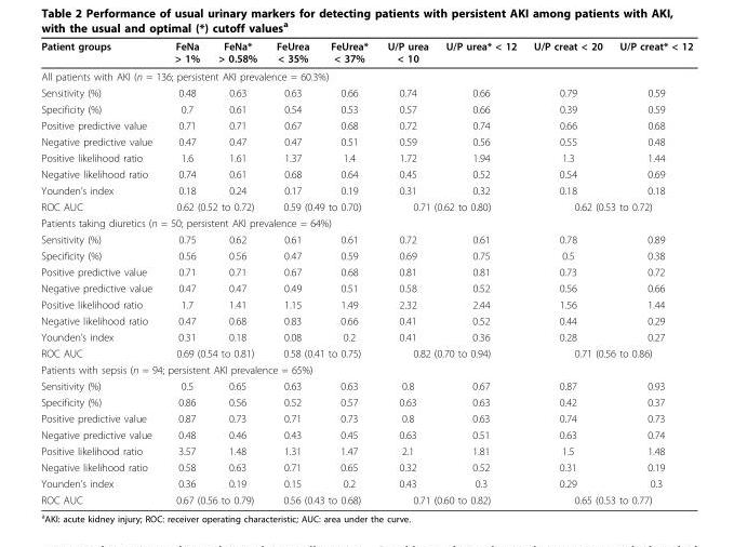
<table><thead><tr><td>Patient groups</td><td>FeNa &gt; 1%</td><td>FeNa* &gt; 0.58%</td><td>FeUrea &lt; 35%</td><td>FeUrea* &lt; 37%</td><td>U/P urea &lt; 10</td><td>U/P urea* &lt; 12</td><td>U/P creat &lt; 20</td><td>U/P creat* &lt; 12</td></tr></thead><tbody><tr><td colspan="9">All patients with AKI (n = 136; persistent AKI prevalence = 60.3%)</td></tr><tr><td>Sensitivity (%)</td><td>0.48</td><td>0.63</td><td>0.63</td><td>0.66</td><td>0.74</td><td>0.66</td><td>0.79</td><td>0.59</td></tr><tr><td>Specificity (%)</td><td>0.7</td><td>0.61</td><td>0.54</td><td>0.53</td><td>0.57</td><td>0.66</td><td>0.39</td><td>0.59</td></tr><tr><td>Positive predictive value</td><td>0.71</td><td>0.71</td><td>0.67</td><td>0.68</td><td>0.72</td><td>0.74</td><td>0.66</td><td>0.68</td></tr><tr><td>Negative predictive value</td><td>0.47</td><td>0.47</td><td>0.47</td><td>0.51</td><td>0.59</td><td>0.56</td><td>0.55</td><td>0.48</td></tr><tr><td>Positive likelihood ratio</td><td>1.6</td><td>1.61</td><td>1.37</td><td>1.4</td><td>1.72</td><td>1.94</td><td>1.3</td><td>1.44</td></tr><tr><td>Negative likelihood ratio</td><td>0.74</td><td>0.61</td><td>0.68</td><td>0.64</td><td>0.45</td><td>0.52</td><td>0.54</td><td>0.69</td></tr><tr><td>Younden’s index</td><td>0.18</td><td>0.24</td><td>0.17</td><td>0.19</td><td>0.31</td><td>0.32</td><td>0.18</td><td>0.18</td></tr><tr><td>ROC AUC</td><td colspan="2">0.62 (0.52 to 0.72)</td><td colspan="2">0.59 (0.49 to 0.70)</td><td colspan="2">0.71 (0.62 to 0.80)</td><td colspan="2">0.62 (0.53 to 0.72)</td></tr><tr><td colspan="9">Patients taking diuretics (n = 50; persistent AKI prevalence = 64%)</td></tr><tr><td>Sensitivity (%)</td><td>0.75</td><td>0.62</td><td>0.61</td><td>0.61</td><td>0.72</td><td>0.61</td><td>0.78</td><td>0.89</td></tr><tr><td>Specificity (%)</td><td>0.56</td><td>0.56</td><td>0.47</td><td>0.59</td><td>0.69</td><td>0.75</td><td>0.5</td><td>0.38</td></tr><tr><td>Positive predictive value</td><td>0.71</td><td>0.71</td><td>0.67</td><td>0.68</td><td>0.81</td><td>0.81</td><td>0.73</td><td>0.72</td></tr><tr><td>Negative predictive value</td><td>0.47</td><td>0.47</td><td>0.49</td><td>0.51</td><td>0.58</td><td>0.52</td><td>0.56</td><td>0.66</td></tr><tr><td>Positive likelihood ratio</td><td>1.7</td><td>1.41</td><td>1.15</td><td>1.49</td><td>2.32</td><td>2.44</td><td>1.56</td><td>1.44</td></tr><tr><td>Negative likelihood ratio</td><td>0.47</td><td>0.68</td><td>0.83</td><td>0.66</td><td>0.41</td><td>0.52</td><td>0.44</td><td>0.29</td></tr><tr><td>Younden’s index</td><td>0.31</td><td>0.18</td><td>0.08</td><td>0.2</td><td>0.41</td><td>0.36</td><td>0.28</td><td>0.27</td></tr><tr><td>ROC AUC</td><td colspan="2">0.69 (0.54 to 0.81)</td><td colspan="2">0.58 (0.41 to 0.75)</td><td colspan="2">0.82 (0.70 to 0.94)</td><td colspan="2">0.71 (0.56 to 0.86)</td></tr><tr><td colspan="9">Patients with sepsis (n = 94; persistent AKI prevalence = 65%)</td></tr><tr><td>Sensitivity (%)</td><td>0.5</td><td>0.65</td><td>0.63</td><td>0.63</td><td>0.8</td><td>0.67</td><td>0.87</td><td>0.93</td></tr><tr><td>Specificity (%)</td><td>0.86</td><td>0.56</td><td>0.52</td><td>0.57</td><td>0.63</td><td>0.63</td><td>0.42</td><td>0.37</td></tr><tr><td>Positive predictive value</td><td>0.87</td><td>0.73</td><td>0.71</td><td>0.73</td><td>0.8</td><td>0.63</td><td>0.74</td><td>0.73</td></tr><tr><td>Negative predictive value</td><td>0.48</td><td>0.46</td><td>0.43</td><td>0.45</td><td>0.63</td><td>0.51</td><td>0.63</td><td>0.74</td></tr><tr><td>Positive likelihood ratio</td><td>3.57</td><td>1.48</td><td>1.31</td><td>1.47</td><td>2.1</td><td>1.81</td><td>1.5</td><td>1.48</td></tr><tr><td>Negative likelihood ratio</td><td>0.58</td><td>0.63</td><td>0.71</td><td>0.65</td><td>0.32</td><td>0.52</td><td>0.31</td><td>0.19</td></tr><tr><td>Younden’s index</td><td>0.36</td><td>0.19</td><td>0.15</td><td>0.2</td><td>0.43</td><td>0.3</td><td>0.29</td><td>0.3</td></tr><tr><td>ROC AUC</td><td colspan="2">0.67 (0.56 to 0.79)</td><td colspan="2">0.56 (0.43 to 0.68)</td><td colspan="2">0.71 (0.60 to 0.82)</td><td colspan="2">0.65 (0.53 to 0.77)</td></tr></tbody></table>